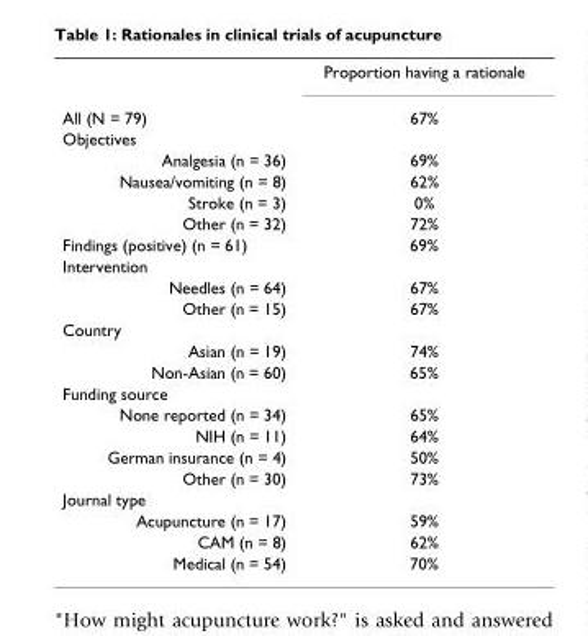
<table><thead><tr><td></td><td>Proportion having a rationale</td></tr></thead><tbody><tr><td>All (N = 79)</td><td>67%</td></tr><tr><td colspan="2">Objectives</td></tr><tr><td>Analgesia (n = 36)</td><td>69%</td></tr><tr><td>Nausea/vomiting (n = 8)</td><td>62%</td></tr><tr><td>Stroke (n = 3)</td><td>0%</td></tr><tr><td>Other (n = 32)</td><td>72%</td></tr><tr><td>Findings (positive) (n = 61)</td><td>69%</td></tr><tr><td colspan="2">Intervention</td></tr><tr><td>Needles (n = 64)</td><td>67%</td></tr><tr><td>Other (n = 15)</td><td>67%</td></tr><tr><td colspan="2">Country</td></tr><tr><td>Asian (n = 19)</td><td>74%</td></tr><tr><td>Non-Asian (n = 60)</td><td>65%</td></tr><tr><td colspan="2">Funding source</td></tr><tr><td>None reported (n = 34)</td><td>65%</td></tr><tr><td>NIH (n = 11)</td><td>64%</td></tr><tr><td>German insurance (n = 4)</td><td>50%</td></tr><tr><td>Other (n = 30)</td><td>73%</td></tr><tr><td colspan="2">Journal type</td></tr><tr><td>Acupuncture (n = 17)</td><td>59%</td></tr><tr><td>CAM (n = 8)</td><td>62%</td></tr><tr><td>Medical (n = 54)</td><td>70%</td></tr></tbody></table>